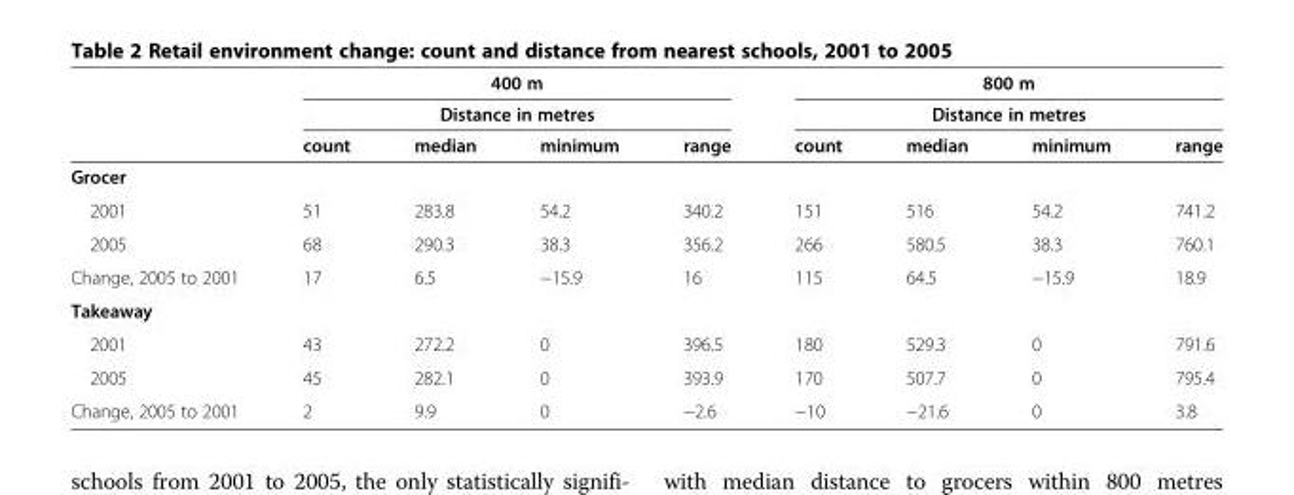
<table><thead><tr><td rowspan="3"></td><td rowspan="2" colspan="4">400 m Distance in metres</td><td rowspan="2" colspan="4">800 m Distance in metres</td></tr><tr></tr><tr><td>count</td><td>median</td><td>minimum</td><td>range</td><td>count</td><td>median</td><td>minimum</td><td>range</td></tr></thead><tbody><tr><td colspan="9">Grocer</td></tr><tr><td>2001</td><td>51</td><td>283.8</td><td>54.2</td><td>340.2</td><td>151</td><td>516</td><td>54.2</td><td>741.2</td></tr><tr><td>2005</td><td>68</td><td>290.3</td><td>38.3</td><td>356.2</td><td>266</td><td>580.5</td><td>38.3</td><td>760.1</td></tr><tr><td>Change, 2005 to 2001</td><td>17</td><td>6.5</td><td>−15.9</td><td>16</td><td>115</td><td>64.5</td><td>−15.9</td><td>18.9</td></tr><tr><td colspan="9">Takeaway</td></tr><tr><td>2001</td><td>43</td><td>272.2</td><td>0</td><td>396.5</td><td>180</td><td>529.3</td><td>0</td><td>791.6</td></tr><tr><td>2005</td><td>45</td><td>282.1</td><td>0</td><td>393.9</td><td>170</td><td>507.7</td><td>0</td><td>795.4</td></tr><tr><td>Change, 2005 to 2001</td><td>2</td><td>9.9</td><td>0</td><td>−2.6</td><td>−10</td><td>−21.6</td><td>0</td><td>3.8</td></tr></tbody></table>